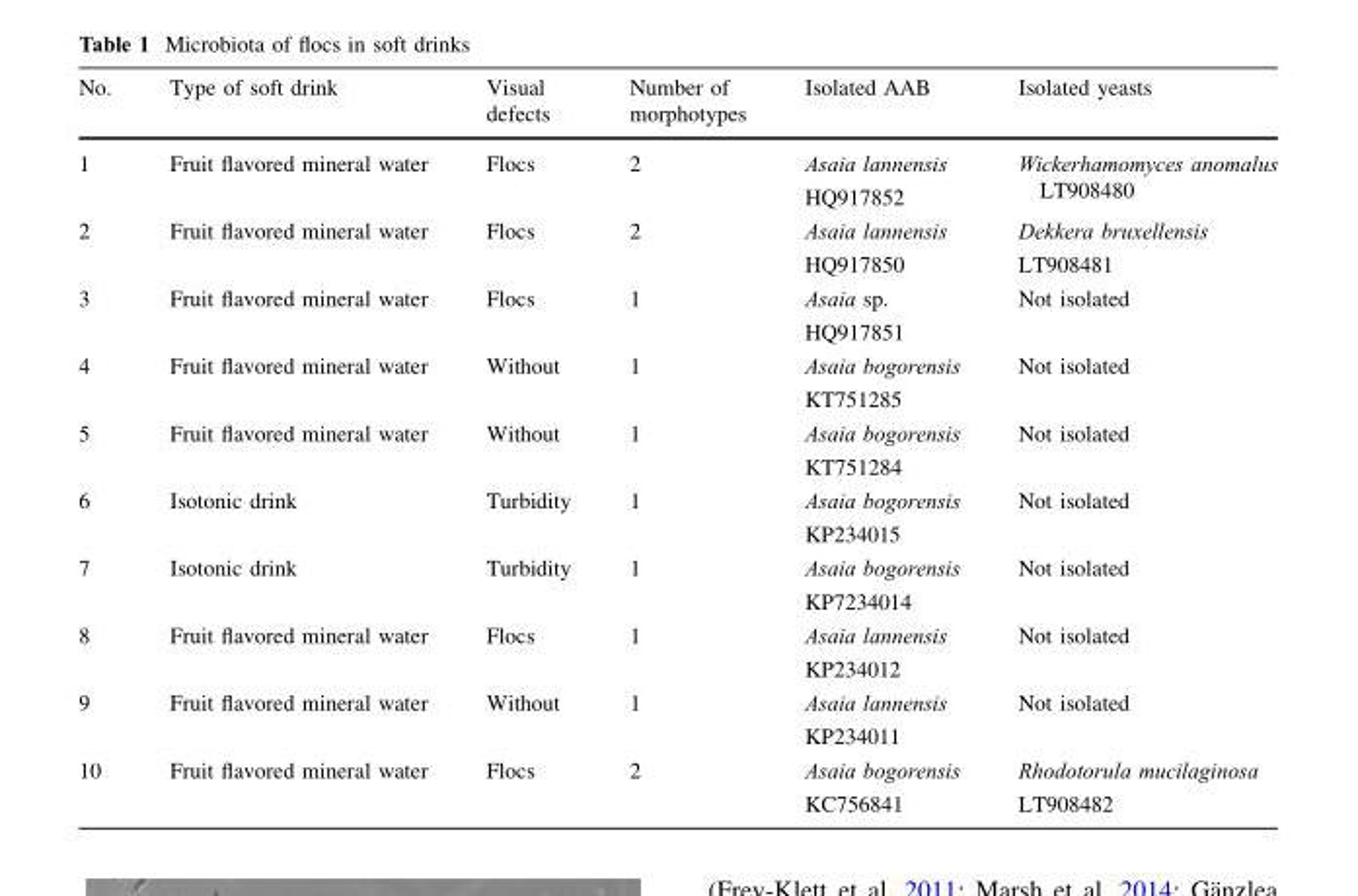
<table><thead><tr><td>No.</td><td>Type of soft drink</td><td>Visual defects</td><td>Number of morphotypes</td><td>Isolated AAB</td><td>Isolated yeasts</td></tr></thead><tbody><tr><td>1</td><td>Fruit flavored mineral water</td><td>Flocs</td><td>2</td><td>Asaia lannensis HQ917852</td><td>Wickerhamomyces anomalus LT908480</td></tr><tr><td>2</td><td>Fruit flavored mineral water</td><td>Flocs</td><td>2</td><td>Asaia lannensis HQ917850</td><td>Dekkera bruxellensis LT908481</td></tr><tr><td>3</td><td>Fruit flavored mineral water</td><td>Flocs</td><td>1</td><td>Asaia sp. HQ917851</td><td>Not isolated</td></tr><tr><td>4</td><td>Fruit flavored mineral water</td><td>Without</td><td>1</td><td>Asaia bogorensis KT751285</td><td>Not isolated</td></tr><tr><td>5</td><td>Fruit flavored mineral water</td><td>Without</td><td>1</td><td>Asaia bogorensis KT751284</td><td>Not isolated</td></tr><tr><td>6</td><td>Isotonic drink</td><td>Turbidity</td><td>1</td><td>Asaia bogorensis KP234015</td><td>Not isolated</td></tr><tr><td>7</td><td>Isotonic drink</td><td>Turbidity</td><td>1</td><td>Asaia bogorensis KP7234014</td><td>Not isolated</td></tr><tr><td>8</td><td>Fruit flavored mineral water</td><td>Flocs</td><td>1</td><td>Asaia lannensis KP234012</td><td>Not isolated</td></tr><tr><td>9</td><td>Fruit flavored mineral water</td><td>Without</td><td>1</td><td>Asaia lannensis KP234011</td><td>Not isolated</td></tr><tr><td>10</td><td>Fruit flavored mineral water</td><td>Flocs</td><td>2</td><td>Asaia bogorensis KC756841</td><td>Rhodotorula mucilaginosa LT908482</td></tr></tbody></table>